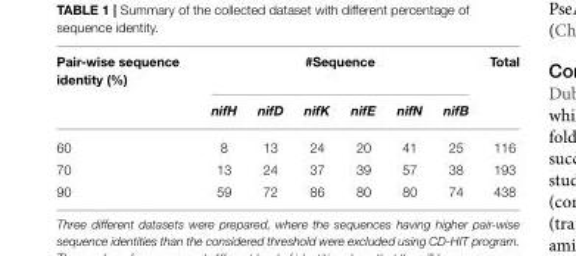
<table><thead><tr><td rowspan="2">Pair-wise sequence identity (%)</td><td colspan="6">#Sequence</td><td rowspan="2">Total</td></tr><tr><td>nifH</td><td>nifD</td><td>nifK</td><td>nifE</td><td>nifN</td><td>nifB</td></tr></thead><tbody><tr><td>60</td><td>8</td><td>13</td><td>24</td><td>20</td><td>41</td><td>25</td><td>116</td></tr><tr><td>70</td><td>13</td><td>24</td><td>37</td><td>39</td><td>57</td><td>38</td><td>193</td></tr><tr><td>90</td><td>59</td><td>72</td><td>86</td><td>80</td><td>80</td><td>74</td><td>438</td></tr></tbody></table>